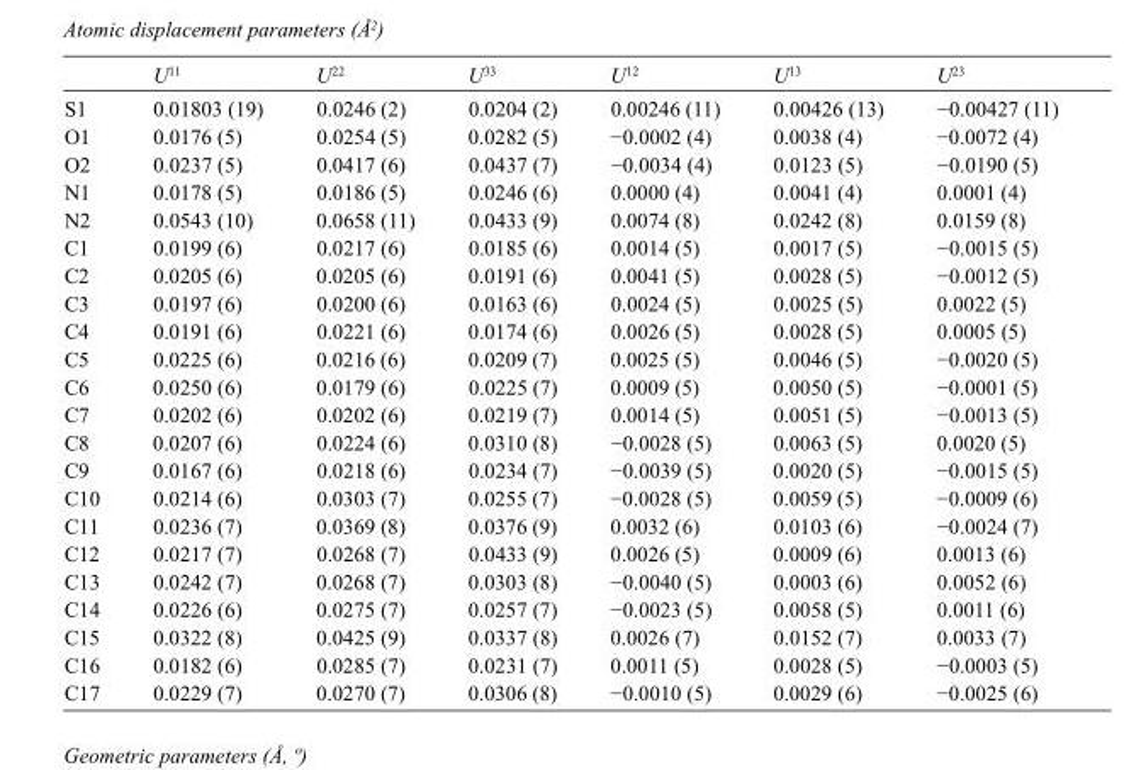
<table><thead><tr><td></td><td>U<sup>11</sup></td><td>U<sup>22</sup></td><td>U<sup>33</sup></td><td>U<sup>12</sup></td><td>U<sup>13</sup></td><td>U<sup>23</sup></td></tr></thead><tbody><tr><td>S1</td><td>0.01803 (19)</td><td>0.0246 (2)</td><td>0.0204 (2)</td><td>0.00246 (11)</td><td>0.00426 (13)</td><td>−0.00427 (11)</td></tr><tr><td>O1</td><td>0.0176 (5)</td><td>0.0254 (5)</td><td>0.0282 (5)</td><td>−0.0002 (4)</td><td>0.0038 (4)</td><td>−0.0072 (4)</td></tr><tr><td>O2</td><td>0.0237 (5)</td><td>0.0417 (6)</td><td>0.0437 (7)</td><td>−0.0034 (4)</td><td>0.0123 (5)</td><td>−0.0190 (5)</td></tr><tr><td>N1</td><td>0.0178 (5)</td><td>0.0186 (5)</td><td>0.0246 (6)</td><td>0.0000 (4)</td><td>0.0041 (4)</td><td>0.0001 (4)</td></tr><tr><td>N2</td><td>0.0543 (10)</td><td>0.0658 (11)</td><td>0.0433 (9)</td><td>0.0074 (8)</td><td>0.0242 (8)</td><td>0.0159 (8)</td></tr><tr><td>C1</td><td>0.0199 (6)</td><td>0.0217 (6)</td><td>0.0185 (6)</td><td>0.0014 (5)</td><td>0.0017 (5)</td><td>−0.0015 (5)</td></tr><tr><td>C2</td><td>0.0205 (6)</td><td>0.0205 (6)</td><td>0.0191 (6)</td><td>0.0041 (5)</td><td>0.0028 (5)</td><td>−0.0012 (5)</td></tr><tr><td>C3</td><td>0.0197 (6)</td><td>0.0200 (6)</td><td>0.0163 (6)</td><td>0.0024 (5)</td><td>0.0025 (5)</td><td>0.0022 (5)</td></tr><tr><td>C4</td><td>0.0191 (6)</td><td>0.0221 (6)</td><td>0.0174 (6)</td><td>0.0026 (5)</td><td>0.0028 (5)</td><td>0.0005 (5)</td></tr><tr><td>C5</td><td>0.0225 (6)</td><td>0.0216 (6)</td><td>0.0209 (7)</td><td>0.0025 (5)</td><td>0.0046 (5)</td><td>−0.0020 (5)</td></tr><tr><td>C6</td><td>0.0250 (6)</td><td>0.0179 (6)</td><td>0.0225 (7)</td><td>0.0009 (5)</td><td>0.0050 (5)</td><td>−0.0001 (5)</td></tr><tr><td>C7</td><td>0.0202 (6)</td><td>0.0202 (6)</td><td>0.0219 (7)</td><td>0.0014 (5)</td><td>0.0051 (5)</td><td>−0.0013 (5)</td></tr><tr><td>C8</td><td>0.0207 (6)</td><td>0.0224 (6)</td><td>0.0310 (8)</td><td>−0.0028 (5)</td><td>0.0063 (5)</td><td>0.0020 (5)</td></tr><tr><td>C9</td><td>0.0167 (6)</td><td>0.0218 (6)</td><td>0.0234 (7)</td><td>−0.0039 (5)</td><td>0.0020 (5)</td><td>−0.0015 (5)</td></tr><tr><td>C10</td><td>0.0214 (6)</td><td>0.0303 (7)</td><td>0.0255 (7)</td><td>−0.0028 (5)</td><td>0.0059 (5)</td><td>−0.0009 (6)</td></tr><tr><td>C11</td><td>0.0236 (7)</td><td>0.0369 (8)</td><td>0.0376 (9)</td><td>0.0032 (6)</td><td>0.0103 (6)</td><td>−0.0024 (7)</td></tr><tr><td>C12</td><td>0.0217 (7)</td><td>0.0268 (7)</td><td>0.0433 (9)</td><td>0.0026 (5)</td><td>0.0009 (6)</td><td>0.0013 (6)</td></tr><tr><td>C13</td><td>0.0242 (7)</td><td>0.0268 (7)</td><td>0.0303 (8)</td><td>−0.0040 (5)</td><td>0.0003 (6)</td><td>0.0052 (6)</td></tr><tr><td>C14</td><td>0.0226 (6)</td><td>0.0275 (7)</td><td>0.0257 (7)</td><td>−0.0023 (5)</td><td>0.0058 (5)</td><td>0.0011 (6)</td></tr><tr><td>C15</td><td>0.0322 (8)</td><td>0.0425 (9)</td><td>0.0337 (8)</td><td>0.0026 (7)</td><td>0.0152 (7)</td><td>0.0033 (7)</td></tr><tr><td>C16</td><td>0.0182 (6)</td><td>0.0285 (7)</td><td>0.0231 (7)</td><td>0.0011 (5)</td><td>0.0028 (5)</td><td>−0.0003 (5)</td></tr><tr><td>C17</td><td>0.0229 (7)</td><td>0.0270 (7)</td><td>0.0306 (8)</td><td>−0.0010 (5)</td><td>0.0029 (6)</td><td>−0.0025 (6)</td></tr></tbody></table>